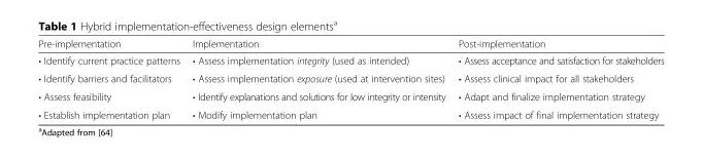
<table><thead><tr><td>Pre-implementation</td><td>Implementation</td><td>Post-implementation</td></tr></thead><tbody><tr><td>• Identify current practice patterns</td><td>• Assess implementation integrity (used as intended)</td><td>• Assess acceptance and satisfaction for stakeholders</td></tr><tr><td>• Identify barriers and facilitators</td><td>• Assess implementation exposure (used at intervention sites)</td><td>• Assess clinical impact for all stakeholders</td></tr><tr><td>• Assess feasibility</td><td>• Identify explanations and solutions for low integrity or intensity</td><td>• Adapt and finalize implementation strategy</td></tr><tr><td>• Establish implementation plan</td><td>• Modify implementation plan</td><td>• Assess impact of final implementation strategy</td></tr></tbody></table>